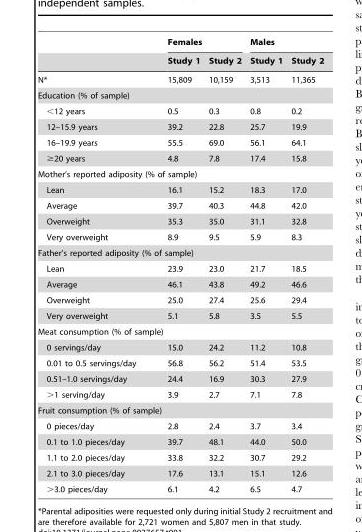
<table><thead><tr><td rowspan="2"></td><td colspan="2">Females</td><td colspan="2">Males</td></tr><tr><td>Study 1</td><td>Study 2</td><td>Study 1</td><td>Study 2</td></tr></thead><tbody><tr><td>N*</td><td>15,809</td><td>10,159</td><td>3,513</td><td>11,365</td></tr><tr><td colspan="5">Education (% of sample)</td></tr><tr><td>&lt;12 years</td><td>0.5</td><td>0.3</td><td>0.8</td><td>0.2</td></tr><tr><td>12–15.9 years</td><td>39.2</td><td>22.8</td><td>25.7</td><td>19.9</td></tr><tr><td>16–19.9 years</td><td>55.5</td><td>69.0</td><td>56.1</td><td>64.1</td></tr><tr><td>≥20 years</td><td>4.8</td><td>7.8</td><td>17.4</td><td>15.8</td></tr><tr><td colspan="5">Mother’s reported adiposity (% of sample)</td></tr><tr><td>Lean</td><td>16.1</td><td>15.2</td><td>18.3</td><td>17.0</td></tr><tr><td>Average</td><td>39.7</td><td>40.3</td><td>44.8</td><td>42.0</td></tr><tr><td>Overweight</td><td>35.3</td><td>35.0</td><td>31.1</td><td>32.8</td></tr><tr><td>Very overweight</td><td>8.9</td><td>9.5</td><td>5.9</td><td>8.3</td></tr><tr><td colspan="5">Father’s reported adiposity (% of sample)</td></tr><tr><td>Lean</td><td>23.9</td><td>23.0</td><td>21.7</td><td>18.5</td></tr><tr><td>Average</td><td>46.1</td><td>43.8</td><td>49.2</td><td>46.6</td></tr><tr><td>Overweight</td><td>25.0</td><td>27.4</td><td>25.6</td><td>29.4</td></tr><tr><td>Very overweight</td><td>5.1</td><td>5.8</td><td>3.5</td><td>5.5</td></tr><tr><td colspan="5">Meat consumption (% of sample)</td></tr><tr><td>0 servings/day</td><td>15.0</td><td>24.2</td><td>11.2</td><td>10.8</td></tr><tr><td>0.01 to 0.5 servings/day</td><td>56.8</td><td>56.2</td><td>51.4</td><td>53.5</td></tr><tr><td>0.51–1.0 servings/day</td><td>24.4</td><td>16.9</td><td>30.3</td><td>27.9</td></tr><tr><td>&gt;1 serving/day</td><td>3.9</td><td>2.7</td><td>7.1</td><td>7.8</td></tr><tr><td colspan="5">Fruit consumption (% of sample)</td></tr><tr><td>0 pieces/day</td><td>2.8</td><td>2.4</td><td>3.7</td><td>3.4</td></tr><tr><td>0.1 to 1.0 pieces/day</td><td>39.7</td><td>48.1</td><td>44.0</td><td>50.0</td></tr><tr><td>1.1 to 2.0 pieces/day</td><td>33.8</td><td>32.2</td><td>30.7</td><td>29.2</td></tr><tr><td>2.1 to 3.0 pieces/day</td><td>17.6</td><td>13.1</td><td>15.1</td><td>12.6</td></tr><tr><td>&gt;3.0 pieces/day</td><td>6.1</td><td>4.2</td><td>6.5</td><td>4.7</td></tr></tbody></table>